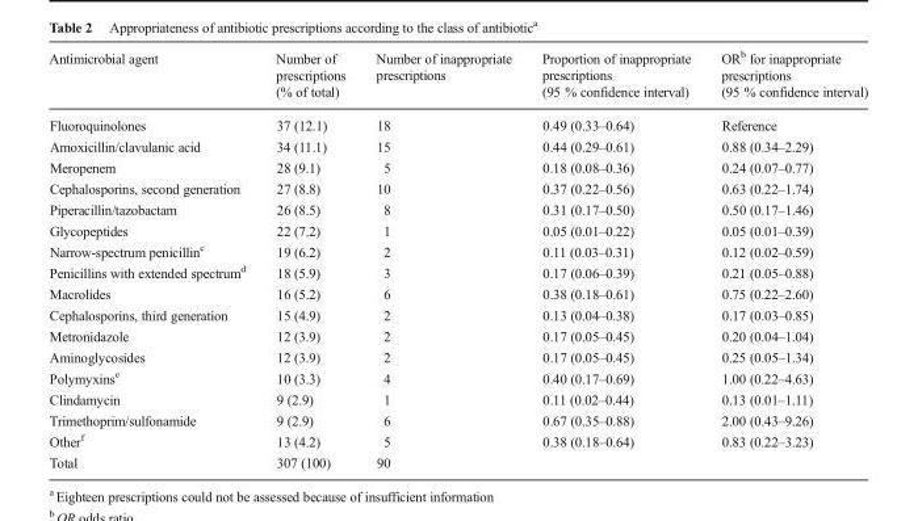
<table><thead><tr><td>Antimicrobial agent</td><td>Number of prescriptions (% of total)</td><td>Number of inappropriate prescriptions</td><td>Proportion of inappropriate prescriptions (95 % confidence interval)</td><td>OR<sup>b</sup> for inappropriate prescriptions (95 % confidence interval)</td></tr></thead><tbody><tr><td>Fluoroquinolones</td><td>37 (12.1)</td><td>18</td><td>0.49 (0.33–0.64)</td><td>Reference</td></tr><tr><td>Amoxicillin/clavulanic acid</td><td>34 (11.1)</td><td>15</td><td>0.44 (0.29–0.61)</td><td>0.88 (0.34–2.29)</td></tr><tr><td>Meropenem</td><td>28 (9.1)</td><td>5</td><td>0.18 (0.08–0.36)</td><td>0.24 (0.07–0.77)</td></tr><tr><td>Cephalosporins, second generation</td><td>27 (8.8)</td><td>10</td><td>0.37 (0.22–0.56)</td><td>0.63 (0.22–1.74)</td></tr><tr><td>Piperacillin/tazobactam</td><td>26 (8.5)</td><td>8</td><td>0.31 (0.17–0.50)</td><td>0.50 (0.17–1.46)</td></tr><tr><td>Glycopeptides</td><td>22 (7.2)</td><td>1</td><td>0.05 (0.01–0.22)</td><td>0.05 (0.01–0.39)</td></tr><tr><td>Narrow-spectrum penicillin<sup>c</sup></td><td>19 (6.2)</td><td>2</td><td>0.11 (0.03–0.31)</td><td>0.12 (0.02–0.59)</td></tr><tr><td>Penicillins with extended spectrum<sup>d</sup></td><td>18 (5.9)</td><td>3</td><td>0.17 (0.06–0.39)</td><td>0.21 (0.05–0.88)</td></tr><tr><td>Macrolides</td><td>16 (5.2)</td><td>6</td><td>0.38 (0.18–0.61)</td><td>0.75 (0.22–2.60)</td></tr><tr><td>Cephalosporins, third generation</td><td>15 (4.9)</td><td>2</td><td>0.13 (0.04–0.38)</td><td>0.17 (0.03–0.85)</td></tr><tr><td>Metronidazole</td><td>12 (3.9)</td><td>2</td><td>0.17 (0.05–0.45)</td><td>0.20 (0.04–1.04)</td></tr><tr><td>Aminoglycosides</td><td>12 (3.9)</td><td>2</td><td>0.17 (0.05–0.45)</td><td>0.25 (0.05–1.34)</td></tr><tr><td>Polymyxins<sup>e</sup></td><td>10 (3.3)</td><td>4</td><td>0.40 (0.17–0.69)</td><td>1.00 (0.22–4.63)</td></tr><tr><td>Clindamycin</td><td>9 (2.9)</td><td>1</td><td>0.11 (0.02–0.44)</td><td>0.13 (0.01–1.11)</td></tr><tr><td>Trimethoprim/sulfonamide</td><td>9 (2.9)</td><td>6</td><td>0.67 (0.35–0.88)</td><td>2.00 (0.43–9.26)</td></tr><tr><td>Other<sup>f</sup></td><td>13 (4.2)</td><td>5</td><td>0.38 (0.18–0.64)</td><td>0.83 (0.22–3.23)</td></tr><tr><td>Total</td><td>307 (100)</td><td>90</td><td></td><td></td></tr></tbody></table>